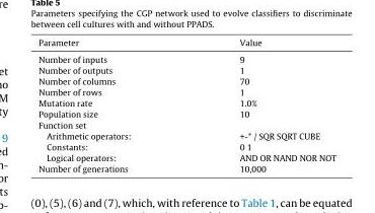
<table><thead><tr><td>Parameter</td><td>Value</td></tr></thead><tbody><tr><td>Number of inputs</td><td>9</td></tr><tr><td>Number of outputs</td><td>1</td></tr><tr><td>Number of columns</td><td>70</td></tr><tr><td>Number of rows</td><td>1</td></tr><tr><td>Mutation rate</td><td>1.0%</td></tr><tr><td>Population size</td><td>10</td></tr><tr><td colspan="2">Function set</td></tr><tr><td>Arithmetic operators:</td><td>+-* / SQR SQRT CUBE</td></tr><tr><td>Constants:</td><td>0 1</td></tr><tr><td>Logical operators:</td><td>AND OR NAND NOR NOT</td></tr><tr><td>Number of generations</td><td>10,000</td></tr></tbody></table>